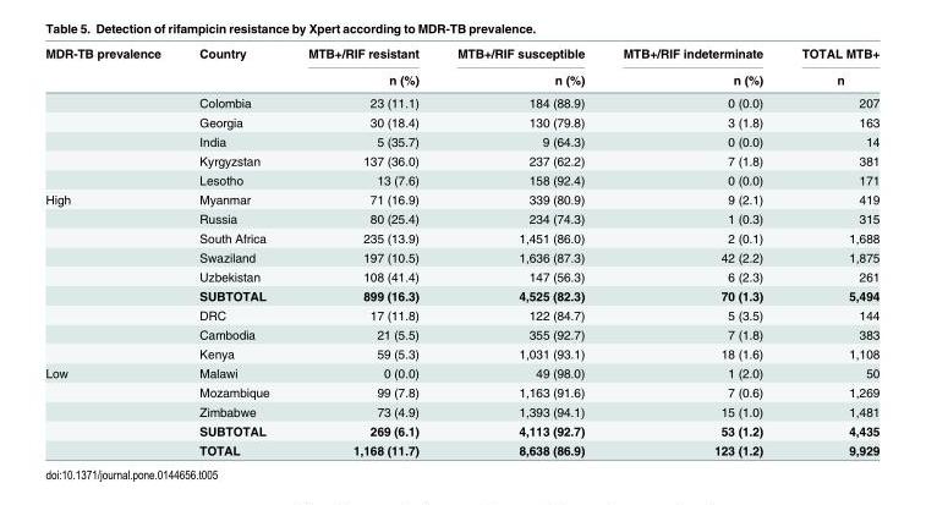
<table><thead><tr><td rowspan="2">MDR-TB prevalence</td><td rowspan="2">Country</td><td rowspan="2">MTB+/RIF resistant n (%)</td><td rowspan="2">MTB+/RIF susceptible n (%)</td><td rowspan="2">MTB+/RIF indeterminate n (%)</td><td rowspan="2">TOTAL MTB+ n</td></tr><tr></tr></thead><tbody><tr><td></td><td>Colombia</td><td>23 (11.1)</td><td>184 (88.9)</td><td>0 (0.0)</td><td>207</td></tr><tr><td></td><td>Georgia</td><td>30 (18.4)</td><td>130 (79.8)</td><td>3 (1.8)</td><td>163</td></tr><tr><td></td><td>India</td><td>5 (35.7)</td><td>9 (64.3)</td><td>0 (0.0)</td><td>14</td></tr><tr><td></td><td>Kyrgyzstan</td><td>137 (36.0)</td><td>237 (62.2)</td><td>7 (1.8)</td><td>381</td></tr><tr><td></td><td>Lesotho</td><td>13 (7.6)</td><td>158 (92.4)</td><td>0 (0.0)</td><td>171</td></tr><tr><td rowspan="9">High</td><td>Myanmar</td><td>71 (16.9)</td><td>339 (80.9)</td><td>9 (2.1)</td><td>419</td></tr><tr><td>Russia</td><td>80 (25.4)</td><td>234 (74.3)</td><td>1 (0.3)</td><td>315</td></tr><tr><td>South Africa</td><td>235 (13.9)</td><td>1,451 (86.0)</td><td>2 (0.1)</td><td>1,688</td></tr><tr><td>Swaziland</td><td>197 (10.5)</td><td>1,636 (87.3)</td><td>42 (2.2)</td><td>1,875</td></tr><tr><td>Uzbekistan</td><td>108 (41.4)</td><td>147 (56.3)</td><td>6 (2.3)</td><td>261</td></tr><tr><td>SUBTOTAL</td><td>899 (16.3)</td><td>4,525 (82.3)</td><td>70 (1.3)</td><td>5,494</td></tr><tr><td>DRC</td><td>17 (11.8)</td><td>122 (84.7)</td><td>5 (3.5)</td><td>144</td></tr><tr><td>Cambodia</td><td>21 (5.5)</td><td>355 (92.7)</td><td>7 (1.8)</td><td>383</td></tr><tr><td>Kenya</td><td>59 (5.3)</td><td>1,031 (93.1)</td><td>18 (1.6)</td><td>1,108</td></tr><tr><td rowspan="5">Low</td><td>Malawi</td><td>0 (0.0)</td><td>49 (98.0)</td><td>1 (2.0)</td><td>50</td></tr><tr><td>Mozambique</td><td>99 (7.8)</td><td>1,163 (91.6)</td><td>7 (0.6)</td><td>1,269</td></tr><tr><td>Zimbabwe</td><td>73 (4.9)</td><td>1,393 (94.1)</td><td>15 (1.0)</td><td>1,481</td></tr><tr><td>SUBTOTAL</td><td>269 (6.1)</td><td>4,113 (92.7)</td><td>53 (1.2)</td><td>4,435</td></tr><tr><td>TOTAL</td><td>1,168 (11.7)</td><td>8,638 (86.9)</td><td>123 (1.2)</td><td>9,929</td></tr></tbody></table>